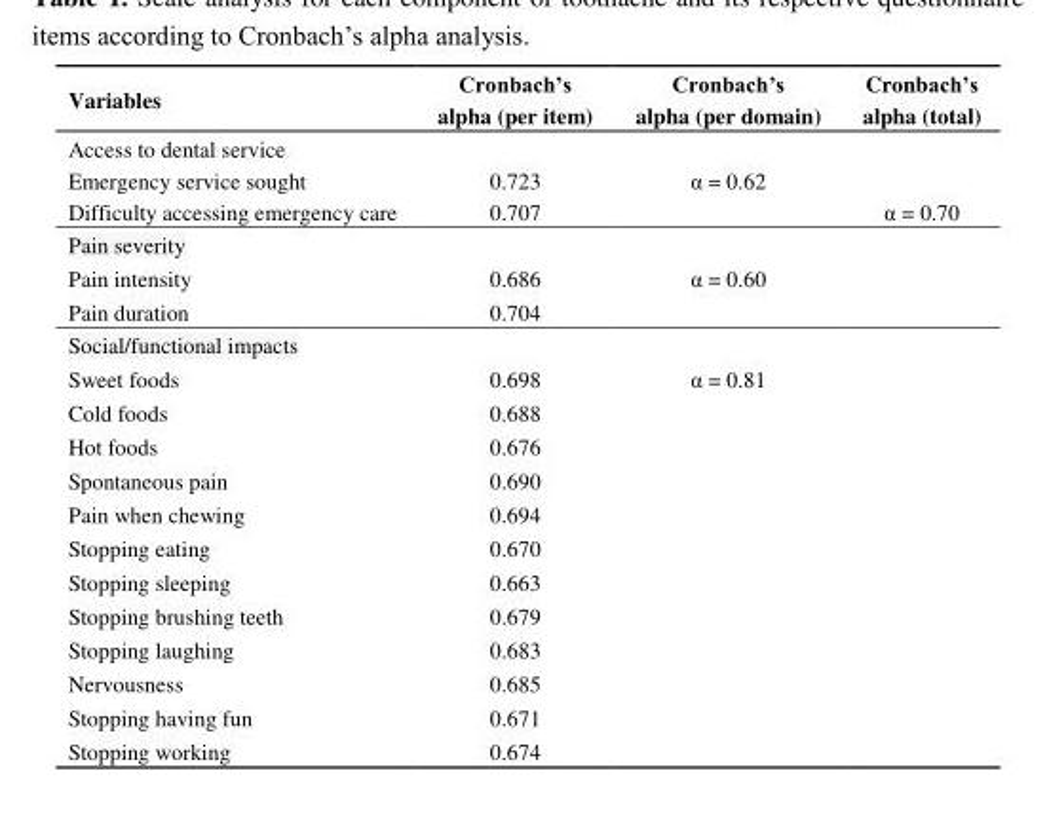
<table><thead><tr><td>Variables</td><td>Cronbach’s alpha (per item)</td><td>Cronbach’s alpha (per domain)</td><td>Cronbach’s alpha (total)</td></tr></thead><tbody><tr><td colspan="4">Access to dental service</td></tr><tr><td>Emergency service sought</td><td>0.723</td><td rowspan="2">α = 0.62</td><td></td></tr><tr><td>Difficulty accessing emergency care</td><td>0.707</td><td>α = 0.70</td></tr><tr><td colspan="3">Pain severity</td><td rowspan="3"></td></tr><tr><td>Pain intensity</td><td>0.686</td><td rowspan="2">α = 0.60</td></tr><tr><td>Pain duration</td><td>0.704</td></tr><tr><td colspan="3">Social/functional impacts</td><td rowspan="13"></td></tr><tr><td>Sweet foods</td><td>0.698</td><td rowspan="12">α = 0.81</td></tr><tr><td>Cold foods</td><td>0.688</td></tr><tr><td>Hot foods</td><td>0.676</td></tr><tr><td>Spontaneous pain</td><td>0.690</td></tr><tr><td>Pain when chewing</td><td>0.694</td></tr><tr><td>Stopping eating</td><td>0.670</td></tr><tr><td>Stopping sleeping</td><td>0.663</td></tr><tr><td>Stopping brushing teeth</td><td>0.679</td></tr><tr><td>Stopping laughing</td><td>0.683</td></tr><tr><td>Nervousness</td><td>0.685</td></tr><tr><td>Stopping having fun</td><td>0.671</td></tr><tr><td>Stopping working</td><td>0.674</td></tr></tbody></table>